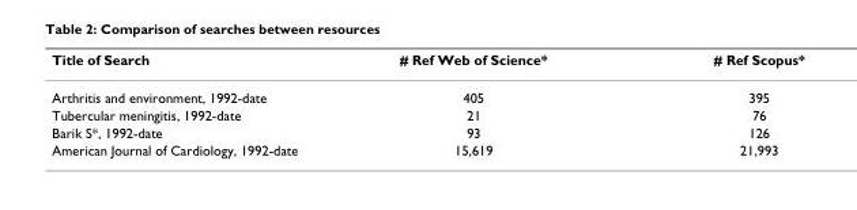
<table><thead><tr><td>Title of Search</td><td># Ref Web of Science*</td><td># Ref Scopus*</td></tr></thead><tbody><tr><td>Arthritis and environment, 1992-date</td><td>405</td><td>395</td></tr><tr><td>Tubercular meningitis, 1992-date</td><td>21</td><td>76</td></tr><tr><td>Barik S*, 1992-date</td><td>93</td><td>126</td></tr><tr><td>American Journal of Cardiology, 1992-date</td><td>15,619</td><td>21,993</td></tr></tbody></table>